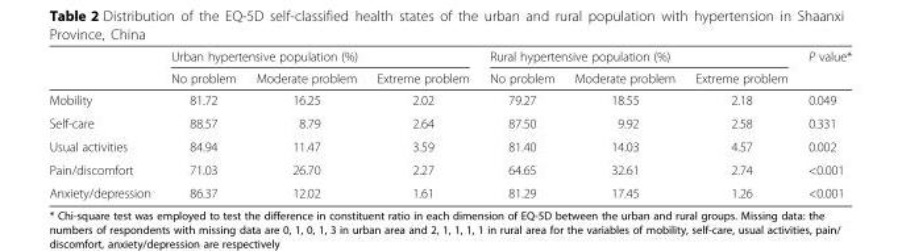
<table><thead><tr><td rowspan="2"></td><td colspan="3">Urban hypertensive population (%)</td><td colspan="3">Rural hypertensive population (%)</td><td rowspan="2">P value*</td></tr><tr><td>No problem</td><td>Moderate problem</td><td>Extreme problem</td><td>No problem</td><td>Moderate problem</td><td>Extreme problem</td></tr></thead><tbody><tr><td>Mobility</td><td>81.72</td><td>16.25</td><td>2.02</td><td>79.27</td><td>18.55</td><td>2.18</td><td>0.049</td></tr><tr><td>Self-care</td><td>88.57</td><td>8.79</td><td>2.64</td><td>87.50</td><td>9.92</td><td>2.58</td><td>0.331</td></tr><tr><td>Usual activities</td><td>84.94</td><td>11.47</td><td>3.59</td><td>81.40</td><td>14.03</td><td>4.57</td><td>0.002</td></tr><tr><td>Pain/discomfort</td><td>71.03</td><td>26.70</td><td>2.27</td><td>64.65</td><td>32.61</td><td>2.74</td><td>&lt;0.001</td></tr><tr><td>Anxiety/depression</td><td>86.37</td><td>12.02</td><td>1.61</td><td>81.29</td><td>17.45</td><td>1.26</td><td>&lt;0.001</td></tr></tbody></table>